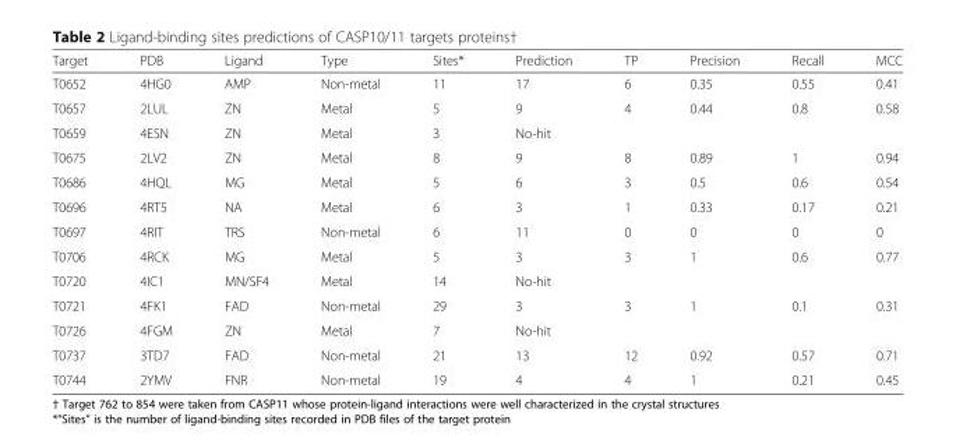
<table><thead><tr><td>Target</td><td>PDB</td><td>Ligand</td><td>Type</td><td>Sites*</td><td>Prediction</td><td>TP</td><td>Precision</td><td>Recall</td><td>MCC</td></tr></thead><tbody><tr><td>T0652</td><td>4HG0</td><td>AMP</td><td>Non-metal</td><td>11</td><td>17</td><td>6</td><td>0.35</td><td>0.55</td><td>0.41</td></tr><tr><td>T0657</td><td>2LUL</td><td>ZN</td><td>Metal</td><td>5</td><td>9</td><td>4</td><td>0.44</td><td>0.8</td><td>0.58</td></tr><tr><td>T0659</td><td>4ESN</td><td>ZN</td><td>Metal</td><td>3</td><td>No-hit</td><td></td><td></td><td></td><td></td></tr><tr><td>T0675</td><td>2LV2</td><td>ZN</td><td>Metal</td><td>8</td><td>9</td><td>8</td><td>0.89</td><td>1</td><td>0.94</td></tr><tr><td>T0686</td><td>4HQL</td><td>MG</td><td>Metal</td><td>5</td><td>6</td><td>3</td><td>0.5</td><td>0.6</td><td>0.54</td></tr><tr><td>T0696</td><td>4RT5</td><td>NA</td><td>Metal</td><td>6</td><td>3</td><td>1</td><td>0.33</td><td>0.17</td><td>0.21</td></tr><tr><td>T0697</td><td>4RIT</td><td>TRS</td><td>Non-metal</td><td>6</td><td>11</td><td>0</td><td>0</td><td>0</td><td>0</td></tr><tr><td>T0706</td><td>4RCK</td><td>MG</td><td>Metal</td><td>5</td><td>3</td><td>3</td><td>1</td><td>0.6</td><td>0.77</td></tr><tr><td>T0720</td><td>4IC1</td><td>MN/SF4</td><td>Metal</td><td>14</td><td>No-hit</td><td></td><td></td><td></td><td></td></tr><tr><td>T0721</td><td>4FK1</td><td>FAD</td><td>Non-metal</td><td>29</td><td>3</td><td>3</td><td>1</td><td>0.1</td><td>0.31</td></tr><tr><td>T0726</td><td>4FGM</td><td>ZN</td><td>Metal</td><td>7</td><td>No-hit</td><td></td><td></td><td></td><td></td></tr><tr><td>T0737</td><td>3TD7</td><td>FAD</td><td>Non-metal</td><td>21</td><td>13</td><td>12</td><td>0.92</td><td>0.57</td><td>0.71</td></tr><tr><td>T0744</td><td>2YMV</td><td>FNR</td><td>Non-metal</td><td>19</td><td>4</td><td>4</td><td>1</td><td>0.21</td><td>0.45</td></tr></tbody></table>